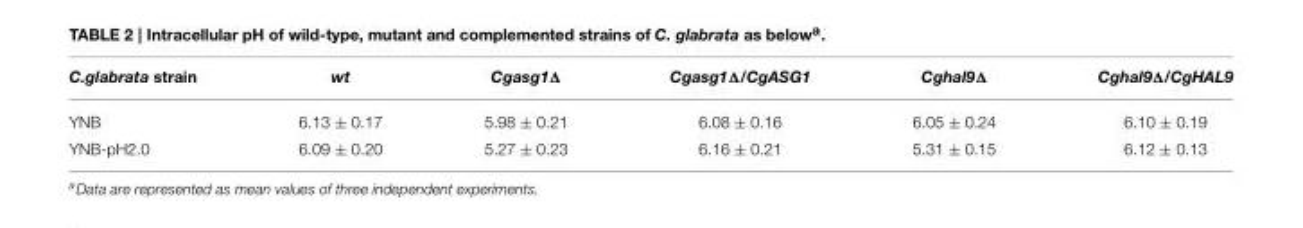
<table><thead><tr><td>C.glabrata strain</td><td>wt</td><td>Cgasg1Δ</td><td>Cgasg1Δ/CgASG1</td><td>Cghal9Δ</td><td>Cghal9Δ/CgHAL9</td></tr></thead><tbody><tr><td>YNB</td><td>6.13 ± 0.17</td><td>5.98 ± 0.21</td><td>6.08 ± 0.16</td><td>6.05 ± 0.24</td><td>6.10 ± 0.19</td></tr><tr><td>YNB-pH2.0</td><td>6.09 ± 0.20</td><td>5.27 ± 0.23</td><td>6.16 ± 0.21</td><td>5.31 ± 0.15</td><td>6.12 ± 0.13</td></tr></tbody></table>